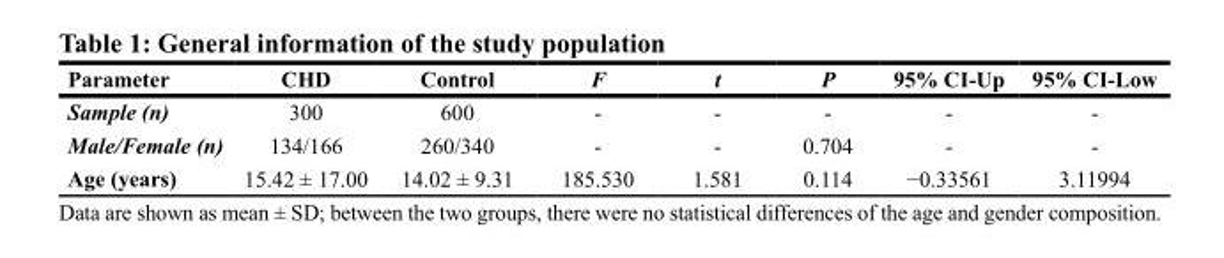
<table><thead><tr><td>Parameter</td><td>CHD</td><td>Control</td><td>F</td><td>t</td><td>P</td><td>95% CI-Up</td><td>95% CI-Low</td></tr></thead><tbody><tr><td>Sample (n)</td><td>300</td><td>600</td><td>-</td><td>-</td><td>-</td><td>-</td><td>-</td></tr><tr><td>Male/Female (n)</td><td>134/166</td><td>260/340</td><td>-</td><td>-</td><td>0.704</td><td>-</td><td>-</td></tr><tr><td>Age (years)</td><td>15.42 ± 17.00</td><td>14.02 ± 9.31</td><td>185.530</td><td>1.581</td><td>0.114</td><td>−0.33561</td><td>3.11994</td></tr></tbody></table>